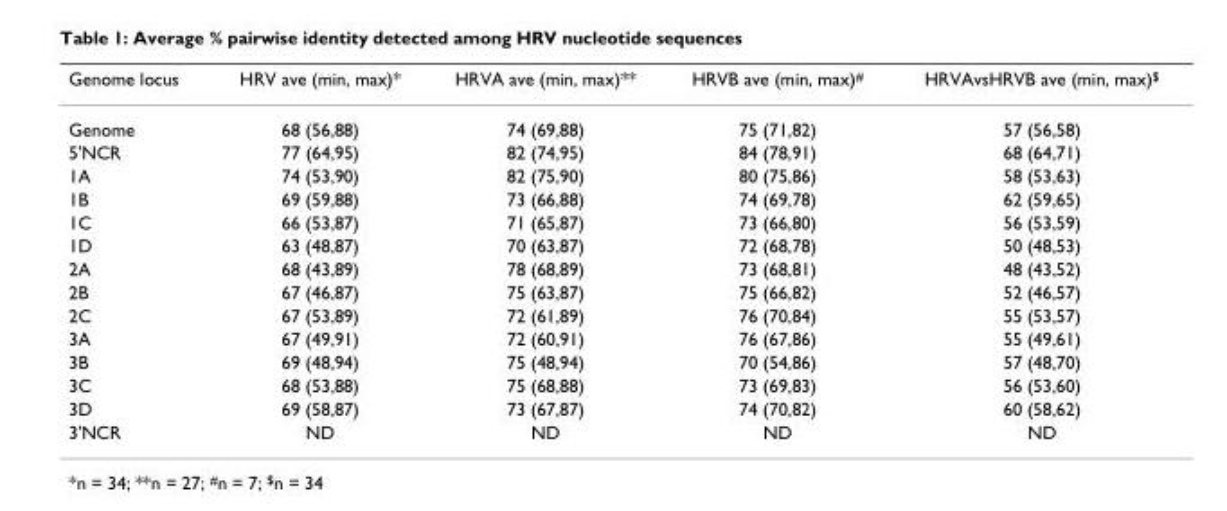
<table><thead><tr><td>Genome locus</td><td>HRV ave (min, max)*</td><td>HRVA ave (min, max)**</td><td>HRVB ave (min, max)<sup>#</sup></td><td>HRVAvsHRVB ave (min, max)<sup>$</sup></td></tr></thead><tbody><tr><td>Genome</td><td>68 (56,88)</td><td>74 (69,88)</td><td>75 (71,82)</td><td>57 (56,58)</td></tr><tr><td>5&#x27;NCR</td><td>77 (64,95)</td><td>82 (74,95)</td><td>84 (78,91)</td><td>68 (64,71)</td></tr><tr><td>1A</td><td>74 (53,90)</td><td>82 (75,90)</td><td>80 (75,86)</td><td>58 (53,63)</td></tr><tr><td>1B</td><td>69 (59,88)</td><td>73 (66,88)</td><td>74 (69,78)</td><td>62 (59,65)</td></tr><tr><td>1C</td><td>66 (53,87)</td><td>71 (65,87)</td><td>73 (66,80)</td><td>56 (53,59)</td></tr><tr><td>1D</td><td>63 (48,87)</td><td>70 (63,87)</td><td>72 (68,78)</td><td>50 (48,53)</td></tr><tr><td>2A</td><td>68 (43,89)</td><td>78 (68,89)</td><td>73 (68,81)</td><td>48 (43,52)</td></tr><tr><td>2B</td><td>67 (46,87)</td><td>75 (63,87)</td><td>75 (66,82)</td><td>52 (46,57)</td></tr><tr><td>2C</td><td>67 (53,89)</td><td>72 (61,89)</td><td>76 (70,84)</td><td>55 (53,57)</td></tr><tr><td>3A</td><td>67 (49,91)</td><td>72 (60,91)</td><td>76 (67,86)</td><td>55 (49,61)</td></tr><tr><td>3B</td><td>69 (48,94)</td><td>75 (48,94)</td><td>70 (54,86)</td><td>57 (48,70)</td></tr><tr><td>3C</td><td>68 (53,88)</td><td>75 (68,88)</td><td>73 (69,83)</td><td>56 (53,60)</td></tr><tr><td>3D</td><td>69 (58,87)</td><td>73 (67,87)</td><td>74 (70,82)</td><td>60 (58,62)</td></tr><tr><td>3&#x27;NCR</td><td>ND</td><td>ND</td><td>ND</td><td>ND</td></tr></tbody></table>